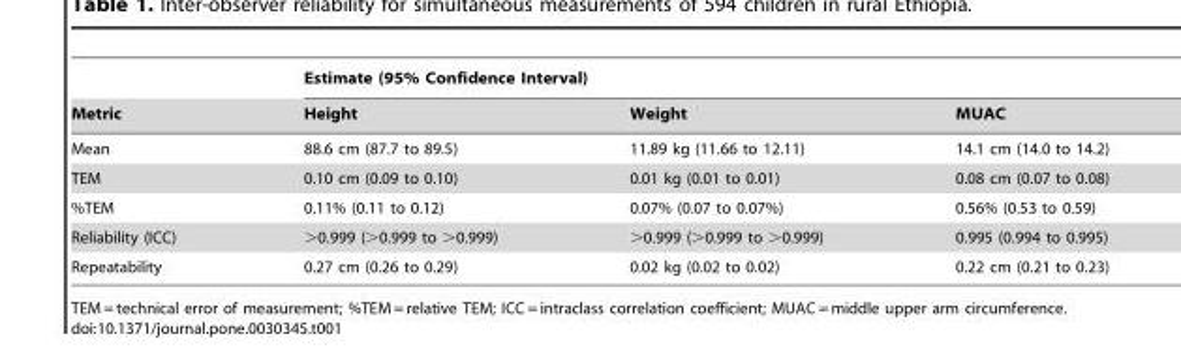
<table><thead><tr><td rowspan="2">Metric</td><td colspan="3">Estimate (95% Confidence Interval)</td></tr><tr><td>Height</td><td>Weight</td><td>MUAC</td></tr></thead><tbody><tr><td>Mean</td><td>88.6 cm (87.7 to 89.5)</td><td>11.89 kg (11.66 to 12.11)</td><td>14.1 cm (14.0 to 14.2)</td></tr><tr><td>TEM</td><td>0.10 cm (0.09 to 0.10)</td><td>0.01 kg (0.01 to 0.01)</td><td>0.08 cm (0.07 to 0.08)</td></tr><tr><td>%TEM</td><td>0.11% (0.11 to 0.12)</td><td>0.07% (0.07 to 0.07%)</td><td>0.56% (0.53 to 0.59)</td></tr><tr><td>Reliability (ICC)</td><td>&gt;0.999 (&gt;0.999 to &gt;0.999)</td><td>&gt;0.999 (&gt;0.999 to &gt;0.999)</td><td>0.995 (0.994 to 0.995)</td></tr><tr><td>Repeatability</td><td>0.27 cm (0.26 to 0.29)</td><td>0.02 kg (0.02 to 0.02)</td><td>0.22 cm (0.21 to 0.23)</td></tr></tbody></table>